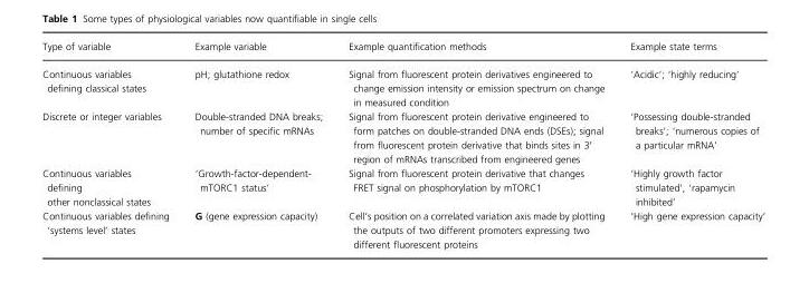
<table><thead><tr><td>Type of variable</td><td>Example variable</td><td>Example quantification methods</td><td>Example state terms</td></tr></thead><tbody><tr><td>Continuous variables defining classical states</td><td>pH; glutathione redox</td><td>Signal from fluorescent protein derivatives engineered to change emission intensity or emission spectrum on change in measured condition</td><td>‘Acidic’; ‘highly reducing’</td></tr><tr><td>Discrete or integer variables</td><td>Double-stranded DNA breaks; number of specific mRNAs</td><td>Signal from fluorescent protein derivative engineered to form patches on double-stranded DNA ends (DSEs); signal from fluorescent protein derivative that binds sites in 3′ region of mRNAs transcribed from engineered genes</td><td>‘Possessing double-stranded breaks’; ‘numerous copies of a particular mRNA’</td></tr><tr><td>Continuous variables defining other nonclassical states</td><td>‘Growth-factor-dependent- mTORC1 status’</td><td>Signal from fluorescent protein derivative that changes FRET signal on phosphorylation by mTORC1</td><td>‘Highly growth factor stimulated’, ‘rapamycin inhibited’</td></tr><tr><td>Continuous variables defining ‘systems level’ states</td><td>G (gene expression capacity)</td><td>Cell’s position on a correlated variation axis made by plotting the outputs of two different promoters expressing two different fluorescent proteins</td><td>‘High gene expression capacity’</td></tr></tbody></table>